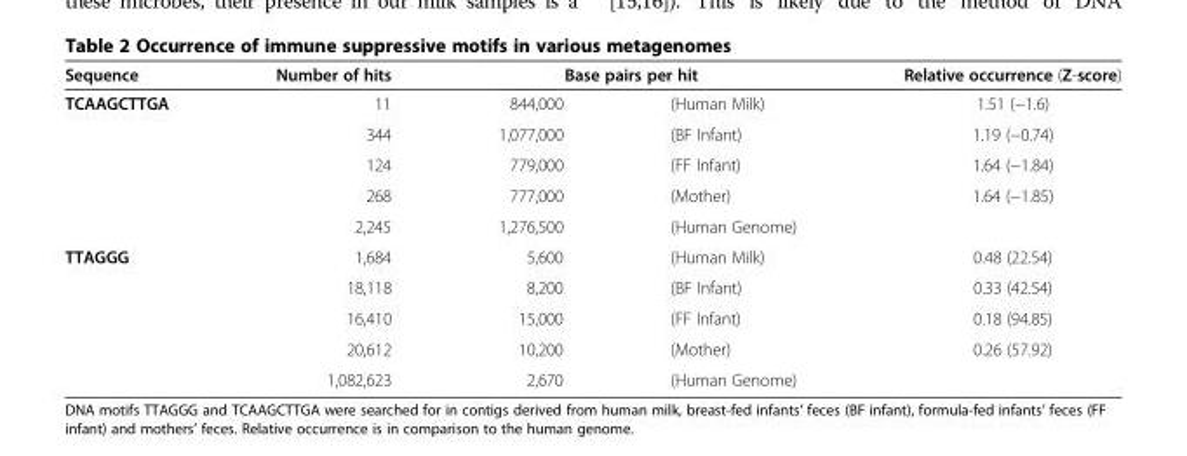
<table><thead><tr><td rowspan="2">Sequence TCAAGCTTGA</td><td rowspan="2">Number of hits 11</td><td colspan="2">Base pairs per hit</td><td rowspan="2">Relative occurrence (Z-score) 1.51 (−1.6)</td></tr><tr><td>844,000</td><td>(Human Milk)</td></tr></thead><tbody><tr><td></td><td>344</td><td>1,077,000</td><td>(BF Infant)</td><td>1.19 (−0.74)</td></tr><tr><td></td><td>124</td><td>779,000</td><td>(FF Infant)</td><td>1.64 (−1.84)</td></tr><tr><td></td><td>268</td><td>777,000</td><td>(Mother)</td><td>1.64 (−1.85)</td></tr><tr><td></td><td>2,245</td><td>1,276,500</td><td>(Human Genome)</td><td></td></tr><tr><td rowspan="5">TTAGGG</td><td>1,684</td><td>5,600</td><td>(Human Milk)</td><td>0.48 (22.54)</td></tr><tr><td>18,118</td><td>8,200</td><td>(BF Infant)</td><td>0.33 (42.54)</td></tr><tr><td>16,410</td><td>15,000</td><td>(FF Infant)</td><td>0.18 (94.85)</td></tr><tr><td>20,612</td><td>10,200</td><td>(Mother)</td><td>0.26 (57.92)</td></tr><tr><td>1,082,623</td><td>2,670</td><td>(Human Genome)</td><td></td></tr></tbody></table>